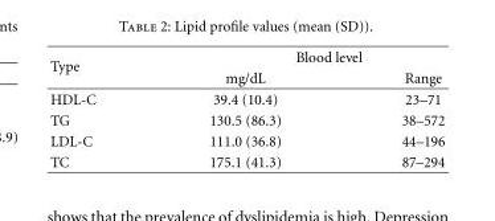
<table><thead><tr><td rowspan="2">Type</td><td colspan="2">Blood level</td></tr><tr><td>mg/dL</td><td>Range</td></tr></thead><tbody><tr><td>HDL-C</td><td>39.4 (10.4)</td><td>23–71</td></tr><tr><td>TG</td><td>130.5 (86.3)</td><td>38–572</td></tr><tr><td>LDL-C</td><td>111.0 (36.8)</td><td>44–196</td></tr><tr><td>TC</td><td>175.1 (41.3)</td><td>87–294</td></tr></tbody></table>